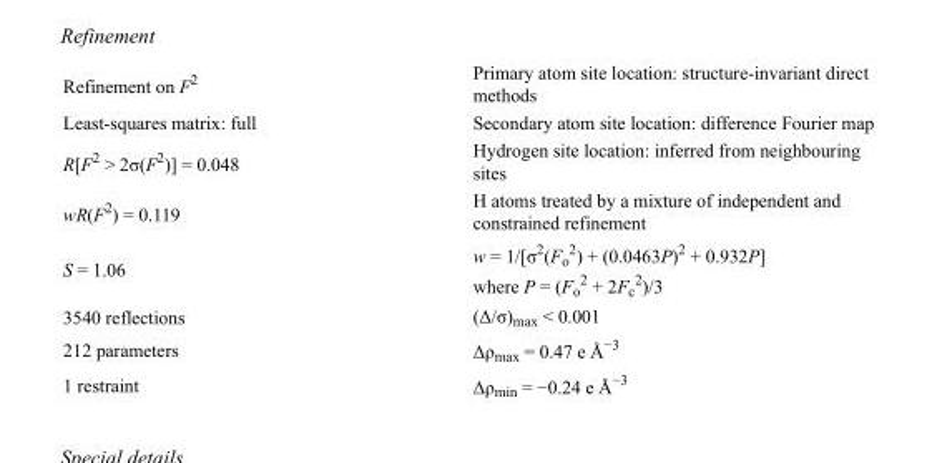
<table><tbody><tr><td>Refinement on F<sup>2</sup></td><td>Primary atom site location: structure-invariant direct methods</td></tr><tr><td>Least-squares matrix: full</td><td>Secondary atom site location: difference Fourier map</td></tr><tr><td>R[F<sup>2</sup> &gt; 2σ(F<sup>2</sup>)] = 0.048</td><td>Hydrogen site location: inferred from neighbouring sites</td></tr><tr><td>wR(F<sup>2</sup>) = 0.119</td><td>H atoms treated by a mixture of independent and constrained refinement</td></tr><tr><td>S = 1.06</td><td>w = 1/[σ<sup>2</sup>(F<sub>o</sub> <sup>2</sup>) + (0.0463P)<sup>2</sup> + 0.932P] where P = (F<sub>o</sub> <sup>2</sup> + 2F<sub>c</sub> <sup>2</sup>)/3</td></tr><tr><td>3540 reflections</td><td>(Δ/σ)<sub>max</sub> &lt; 0.001</td></tr><tr><td>212 parameters</td><td>Δρ<sub>max</sub> = 0.47 e Å<sup>−3</sup></td></tr><tr><td>1 restraint</td><td>Δρ<sub>min</sub> = −0.24 e Å<sup>−3</sup></td></tr></tbody></table>